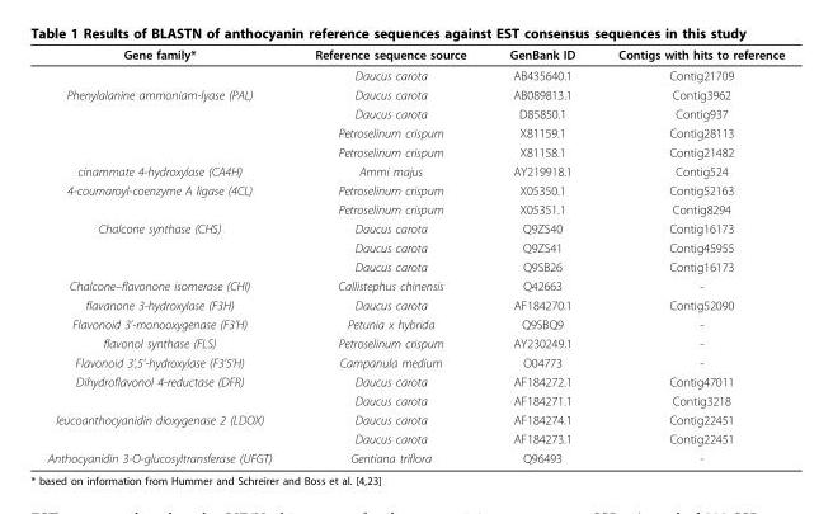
<table><thead><tr><td>Gene family*</td><td>Reference sequence source</td><td>GenBank ID</td><td>Contigs with hits to reference</td></tr></thead><tbody><tr><td></td><td>Daucus carota</td><td>AB435640.1</td><td>Contig21709</td></tr><tr><td rowspan="4">Phenylalanine ammoniam-lyase (PAL)</td><td>Daucus carota</td><td>AB089813.1</td><td>Contig3962</td></tr><tr><td>Daucus carota</td><td>D85850.1</td><td>Contig937</td></tr><tr><td>Petroselinum crispum</td><td>X81159.1</td><td>Contig28113</td></tr><tr><td>Petroselinum crispum</td><td>X81158.1</td><td>Contig21482</td></tr><tr><td>cinammate 4-hydroxylase (CA4H)</td><td>Ammi majus</td><td>AY219918.1</td><td>Contig524</td></tr><tr><td rowspan="2">4-coumaroyl-coenzyme A ligase (4CL)</td><td>Petroselinum crispum</td><td>X05350.1</td><td>Contig52163</td></tr><tr><td>Petroselinum crispum</td><td>X05351.1</td><td>Contig8294</td></tr><tr><td rowspan="3">Chalcone synthase (CHS)</td><td>Daucus carota</td><td>Q9ZS40</td><td>Contig16173</td></tr><tr><td>Daucus carota</td><td>Q9ZS41</td><td>Contig45955</td></tr><tr><td>Daucus carota</td><td>Q9SB26</td><td>Contig16173</td></tr><tr><td>Chalcone–flavonone isomerase (CHI)</td><td>Callistephus chinensis</td><td>Q42663</td><td>-</td></tr><tr><td>flavanone 3-hydroxylase (F3H)</td><td>Daucus carota</td><td>AF184270.1</td><td>Contig52090</td></tr><tr><td>Flavonoid 3’-monooxygenase (F3’H)</td><td>Petunia x hybrida</td><td>Q9SBQ9</td><td>-</td></tr><tr><td>flavonol synthase (FLS)</td><td>Petroselinum crispum</td><td>AY230249.1</td><td>-</td></tr><tr><td>Flavonoid 3’,5’-hydroxylase (F3’5’H)</td><td>Campanula medium</td><td>O04773</td><td>-</td></tr><tr><td rowspan="2">Dihydroflavonol 4-reductase (DFR)</td><td>Daucus carota</td><td>AF184272.1</td><td>Contig47011</td></tr><tr><td>Daucus carota</td><td>AF184271.1</td><td>Contig3218</td></tr><tr><td rowspan="2">leucoanthocyanidin dioxygenase 2 (LDOX)</td><td>Daucus carota</td><td>AF184274.1</td><td>Contig22451</td></tr><tr><td>Daucus carota</td><td>AF184273.1</td><td>Contig22451</td></tr><tr><td>Anthocyanidin 3-O-glucosyltransferase (UFGT)</td><td>Gentiana triflora</td><td>Q96493</td><td>-</td></tr></tbody></table>